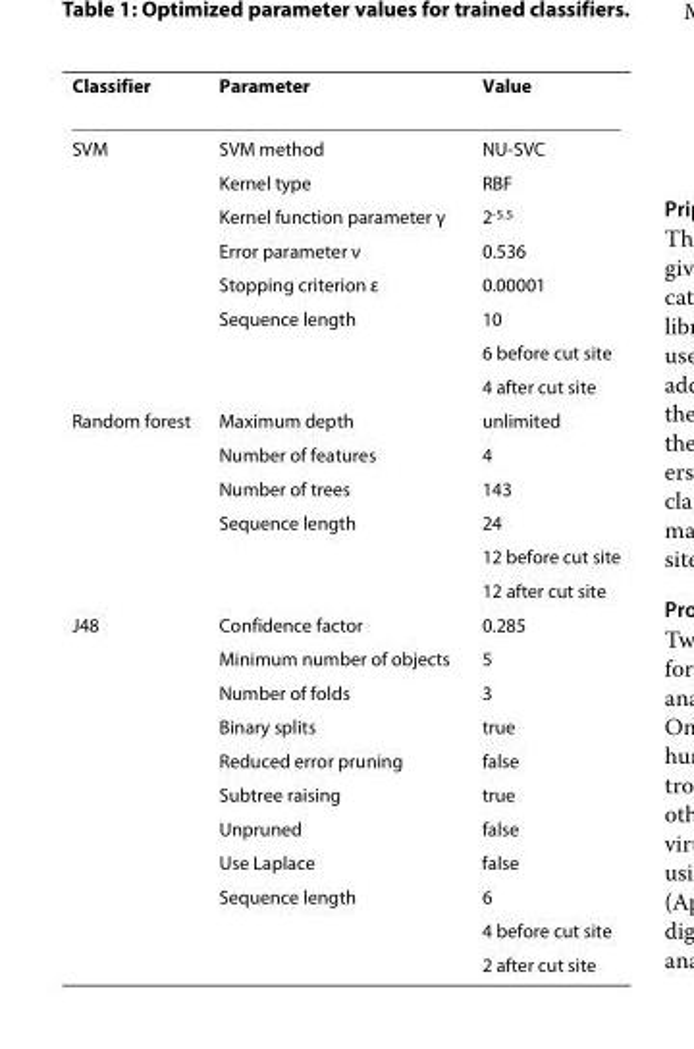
<table><thead><tr><td>Classifier</td><td>Parameter</td><td>Value</td></tr></thead><tbody><tr><td rowspan="8">SVM</td><td>SVM method</td><td>NU-SVC</td></tr><tr><td>Kernel type</td><td>RBF</td></tr><tr><td>Kernel function parameter γ</td><td>2<sup>-5.5</sup></td></tr><tr><td>Error parameter ν</td><td>0.536</td></tr><tr><td>Stopping criterion ε</td><td>0.00001</td></tr><tr><td>Sequence length</td><td>10</td></tr><tr><td></td><td>6 before cut site</td></tr><tr><td></td><td>4 after cut site</td></tr><tr><td rowspan="6">Random forest</td><td>Maximum depth</td><td>unlimited</td></tr><tr><td>Number of features</td><td>4</td></tr><tr><td>Number of trees</td><td>143</td></tr><tr><td>Sequence length</td><td>24</td></tr><tr><td></td><td>12 before cut site</td></tr><tr><td></td><td>12 after cut site</td></tr><tr><td rowspan="11">J48</td><td>Confidence factor</td><td>0.285</td></tr><tr><td>Minimum number of objects</td><td>5</td></tr><tr><td>Number of folds</td><td>3</td></tr><tr><td>Binary splits</td><td>true</td></tr><tr><td>Reduced error pruning</td><td>false</td></tr><tr><td>Subtree raising</td><td>true</td></tr><tr><td>Unpruned</td><td>false</td></tr><tr><td>Use Laplace</td><td>false</td></tr><tr><td>Sequence length</td><td>6</td></tr><tr><td></td><td>4 before cut site</td></tr><tr><td></td><td>2 after cut site</td></tr></tbody></table>